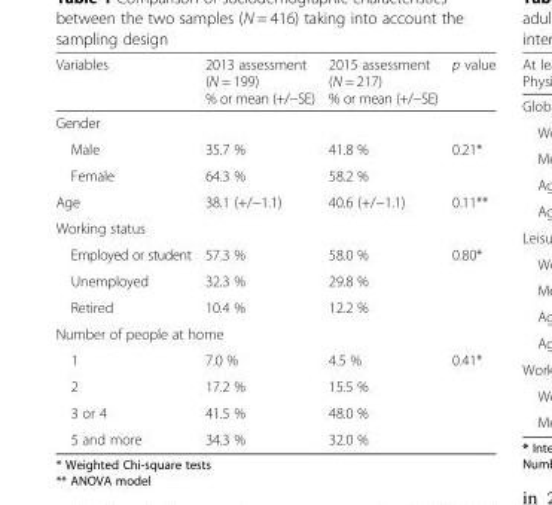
<table><thead><tr><td>Variables</td><td>2013 assessment (N = 199) % or mean (+/−SE)</td><td>2015 assessment (N = 217) % or mean (+/−SE)</td><td>p value</td></tr></thead><tbody><tr><td colspan="4">Gender</td></tr><tr><td>Male</td><td>35.7 %</td><td>41.8 %</td><td rowspan="2">0.21*</td></tr><tr><td>Female</td><td>64.3 %</td><td>58.2 %</td></tr><tr><td>Age</td><td>38.1 (+/−1.1)</td><td>40.6 (+/−1.1)</td><td>0.11**</td></tr><tr><td colspan="4">Working status</td></tr><tr><td>Employed or student</td><td>57.3 %</td><td>58.0 %</td><td rowspan="3">0.80*</td></tr><tr><td>Unemployed</td><td>32.3 %</td><td>29.8 %</td></tr><tr><td>Retired</td><td>10.4 %</td><td>12.2 %</td></tr><tr><td colspan="4">Number of people at home</td></tr><tr><td>1</td><td>7.0 %</td><td>4.5 %</td><td rowspan="4">0.41*</td></tr><tr><td>2</td><td>17.2 %</td><td>15.5 %</td></tr><tr><td>3 or 4</td><td>41.5 %</td><td>48.0 %</td></tr><tr><td>5 and more</td><td>34.3 %</td><td>32.0 %</td></tr></tbody></table>